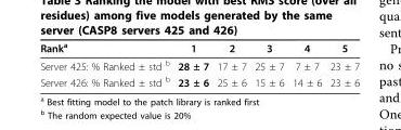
<table><thead><tr><td>Rank<sup>a</sup></td><td>1</td><td>2</td><td>3</td><td>4</td><td>5</td></tr></thead><tbody><tr><td>Server 425: % Ranked ± std <sup>b</sup></td><td>28 ± 7</td><td>17 ± 7</td><td>25 ± 7</td><td>7 ± 7</td><td>23 ± 7</td></tr><tr><td>Server 426: % Ranked ± std <sup>b</sup></td><td>23 ± 6</td><td>25 ± 6</td><td>15 ± 6</td><td>14 ± 6</td><td>23 ± 6</td></tr></tbody></table>